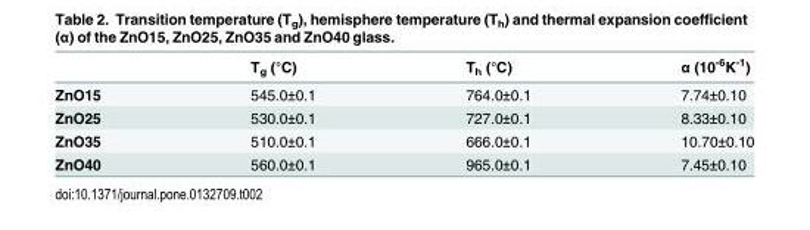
<table><thead><tr><td></td><td>T<sub>g</sub> (°C)</td><td>T<sub>h</sub> (°C)</td><td>α (10<sup>-6</sup>K<sup>-1</sup>)</td></tr></thead><tbody><tr><td>ZnO15</td><td>545.0±0.1</td><td>764.0±0.1</td><td>7.74±0.10</td></tr><tr><td>ZnO25</td><td>530.0±0.1</td><td>727.0±0.1</td><td>8.33±0.10</td></tr><tr><td>ZnO35</td><td>510.0±0.1</td><td>666.0±0.1</td><td>10.70±0.10</td></tr><tr><td>ZnO40</td><td>560.0±0.1</td><td>965.0±0.1</td><td>7.45±0.10</td></tr></tbody></table>